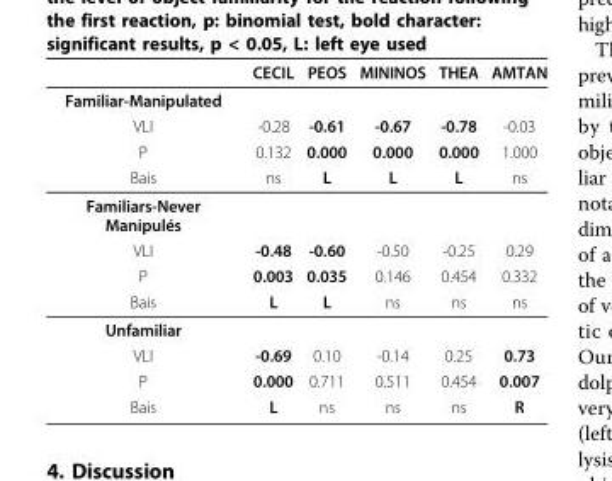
<table><thead><tr><td></td><td>CECIL</td><td>PEOS</td><td>MININOS</td><td>THEA</td><td>AMTAN</td></tr></thead><tbody><tr><td colspan="6">Familiar-Manipulated</td></tr><tr><td>VLI</td><td>-0.28</td><td>-0.61</td><td>-0.67</td><td>-0.78</td><td>-0.03</td></tr><tr><td>P</td><td>0.132</td><td>0.000</td><td>0.000</td><td>0.000</td><td>1.000</td></tr><tr><td>Bais</td><td>ns</td><td>L</td><td>L</td><td>L</td><td>ns</td></tr><tr><td colspan="6">Familiars-Never Manipulés</td></tr><tr><td>VLI</td><td>-0.48</td><td>-0.60</td><td>-0.50</td><td>-0.25</td><td>0.29</td></tr><tr><td>P</td><td>0.003</td><td>0.035</td><td>0.146</td><td>0.454</td><td>0.332</td></tr><tr><td>Bais</td><td>L</td><td>L</td><td>ns</td><td>ns</td><td>ns</td></tr><tr><td colspan="6">Unfamiliar</td></tr><tr><td>VLI</td><td>-0.69</td><td>0.10</td><td>-0.14</td><td>0.25</td><td>0.73</td></tr><tr><td>P</td><td>0.000</td><td>0.711</td><td>0.511</td><td>0.454</td><td>0.007</td></tr><tr><td>Bais</td><td>L</td><td>ns</td><td>ns</td><td>ns</td><td>R</td></tr></tbody></table>